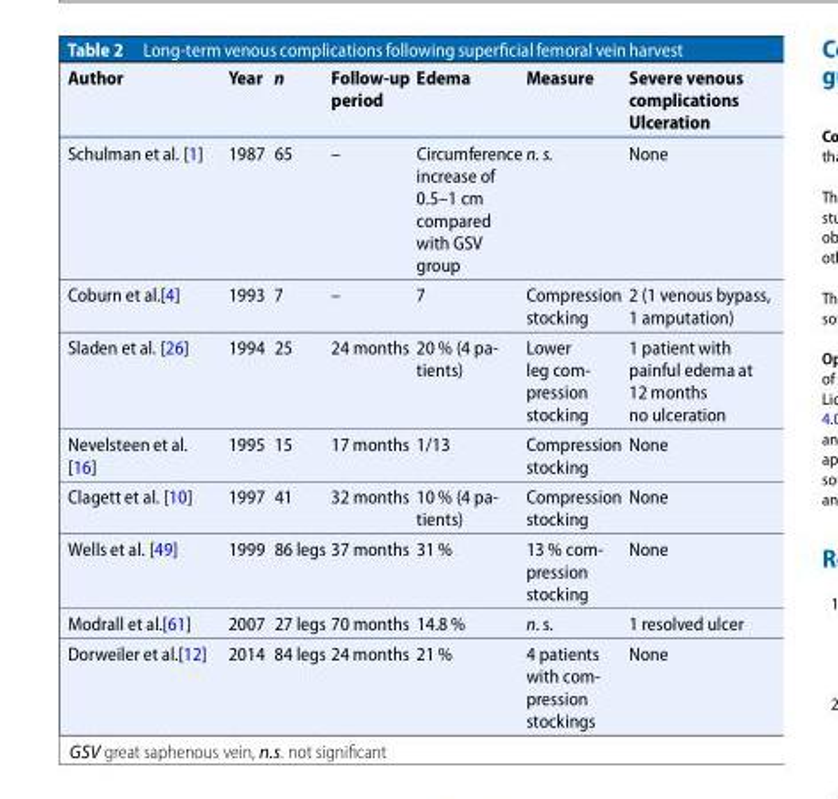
<table><thead><tr><td>Author</td><td>Year</td><td>n</td><td>Follow-up period</td><td>Edema</td><td>Measure</td><td>Severe venous complications Ulceration</td></tr></thead><tbody><tr><td>Schulman et al. [1]</td><td>1987</td><td>65</td><td>–</td><td>Circumference increase of 0.5–1 cm compared with GSV group</td><td>n. s.</td><td>None</td></tr><tr><td>Coburn et al.[4]</td><td>1993</td><td>7</td><td>–</td><td>7</td><td>Compression stocking</td><td>2 (1 venous bypass, 1 amputation)</td></tr><tr><td>Sladen et al. [26]</td><td>1994</td><td>25</td><td>24 months</td><td>20 % (4 pa- tients)</td><td>Lower leg com- pression stocking</td><td>1 patient with painful edema at 12 months no ulceration</td></tr><tr><td>Nevelsteen et al. [16]</td><td>1995</td><td>15</td><td>17 months</td><td>1/13</td><td>Compression stocking</td><td>None</td></tr><tr><td>Clagett et al. [10]</td><td>1997</td><td>41</td><td>32 months</td><td>10 % (4 pa- tients)</td><td>Compression stocking</td><td>None</td></tr><tr><td>Wells et al. [49]</td><td>1999</td><td>86 legs</td><td>37 months</td><td>31 %</td><td>13 % com- pression stocking</td><td>None</td></tr><tr><td>Modrall et al.[61]</td><td>2007</td><td>27 legs</td><td>70 months</td><td>14.8 %</td><td>n. s.</td><td>1 resolved ulcer</td></tr><tr><td>Dorweiler et al.[12]</td><td>2014</td><td>84 legs</td><td>24 months</td><td>21 %</td><td>4 patients with com- pression stockings</td><td>None</td></tr></tbody></table>